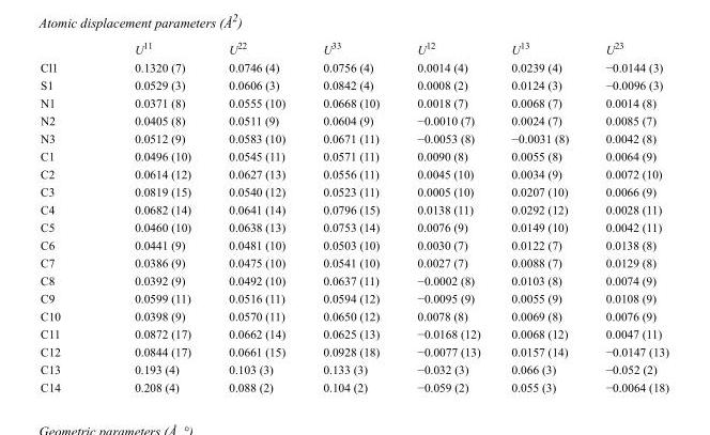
<table><thead><tr><td></td><td>U<sup>11</sup></td><td>U<sup>22</sup></td><td>U<sup>33</sup></td><td>U<sup>12</sup></td><td>U<sup>13</sup></td><td>U<sup>23</sup></td></tr></thead><tbody><tr><td>Cl1</td><td>0.1320 (7)</td><td>0.0746 (4)</td><td>0.0756 (4)</td><td>0.0014 (4)</td><td>0.0239 (4)</td><td>−0.0144 (3)</td></tr><tr><td>S1</td><td>0.0529 (3)</td><td>0.0606 (3)</td><td>0.0842 (4)</td><td>0.0008 (2)</td><td>0.0124 (3)</td><td>−0.0096 (3)</td></tr><tr><td>N1</td><td>0.0371 (8)</td><td>0.0555 (10)</td><td>0.0668 (10)</td><td>0.0018 (7)</td><td>0.0068 (7)</td><td>0.0014 (8)</td></tr><tr><td>N2</td><td>0.0405 (8)</td><td>0.0511 (9)</td><td>0.0604 (9)</td><td>−0.0010 (7)</td><td>0.0024 (7)</td><td>0.0085 (7)</td></tr><tr><td>N3</td><td>0.0512 (9)</td><td>0.0583 (10)</td><td>0.0671 (11)</td><td>−0.0053 (8)</td><td>−0.0031 (8)</td><td>0.0042 (8)</td></tr><tr><td>C1</td><td>0.0496 (10)</td><td>0.0545 (11)</td><td>0.0571 (11)</td><td>0.0090 (8)</td><td>0.0055 (8)</td><td>0.0064 (9)</td></tr><tr><td>C2</td><td>0.0614 (12)</td><td>0.0627 (13)</td><td>0.0556 (11)</td><td>0.0045 (10)</td><td>0.0034 (9)</td><td>0.0072 (10)</td></tr><tr><td>C3</td><td>0.0819 (15)</td><td>0.0540 (12)</td><td>0.0523 (11)</td><td>0.0005 (10)</td><td>0.0207 (10)</td><td>0.0066 (9)</td></tr><tr><td>C4</td><td>0.0682 (14)</td><td>0.0641 (14)</td><td>0.0796 (15)</td><td>0.0138 (11)</td><td>0.0292 (12)</td><td>0.0028 (11)</td></tr><tr><td>C5</td><td>0.0460 (10)</td><td>0.0638 (13)</td><td>0.0753 (14)</td><td>0.0076 (9)</td><td>0.0149 (10)</td><td>0.0042 (11)</td></tr><tr><td>C6</td><td>0.0441 (9)</td><td>0.0481 (10)</td><td>0.0503 (10)</td><td>0.0030 (7)</td><td>0.0122 (7)</td><td>0.0138 (8)</td></tr><tr><td>C7</td><td>0.0386 (9)</td><td>0.0475 (10)</td><td>0.0541 (10)</td><td>0.0027 (7)</td><td>0.0088 (7)</td><td>0.0129 (8)</td></tr><tr><td>C8</td><td>0.0392 (9)</td><td>0.0492 (10)</td><td>0.0637 (11)</td><td>−0.0002 (8)</td><td>0.0103 (8)</td><td>0.0074 (9)</td></tr><tr><td>C9</td><td>0.0599 (11)</td><td>0.0516 (11)</td><td>0.0594 (12)</td><td>−0.0095 (9)</td><td>0.0055 (9)</td><td>0.0108 (9)</td></tr><tr><td>C10</td><td>0.0398 (9)</td><td>0.0570 (11)</td><td>0.0650 (12)</td><td>0.0078 (8)</td><td>0.0069 (8)</td><td>0.0076 (9)</td></tr><tr><td>C11</td><td>0.0872 (17)</td><td>0.0662 (14)</td><td>0.0625 (13)</td><td>−0.0168 (12)</td><td>0.0068 (12)</td><td>0.0047 (11)</td></tr><tr><td>C12</td><td>0.0844 (17)</td><td>0.0661 (15)</td><td>0.0928 (18)</td><td>−0.0077 (13)</td><td>0.0157 (14)</td><td>−0.0147 (13)</td></tr><tr><td>C13</td><td>0.193 (4)</td><td>0.103 (3)</td><td>0.133 (3)</td><td>−0.032 (3)</td><td>0.066 (3)</td><td>−0.052 (2)</td></tr><tr><td>C14</td><td>0.208 (4)</td><td>0.088 (2)</td><td>0.104 (2)</td><td>−0.059 (2)</td><td>0.055 (3)</td><td>−0.0064 (18)</td></tr></tbody></table>